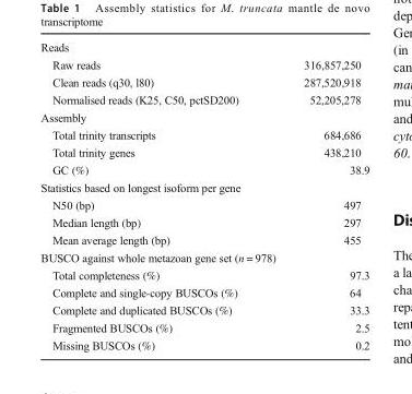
<table><tbody><tr><td colspan="2">Reads</td></tr><tr><td>Raw reads</td><td>316,857,250</td></tr><tr><td>Clean reads (q30, l80)</td><td>287,520,918</td></tr><tr><td>Normalised reads (K25, C50, pctSD200)</td><td>52,205,278</td></tr><tr><td colspan="2">Assembly</td></tr><tr><td>Total trinity transcripts</td><td>684,686</td></tr><tr><td>Total trinity genes</td><td>438,210</td></tr><tr><td>GC (%)</td><td>38.9</td></tr><tr><td colspan="2">Statistics based on longest isoform per gene</td></tr><tr><td>N50 (bp)</td><td>497</td></tr><tr><td>Median length (bp)</td><td>297</td></tr><tr><td>Mean average length (bp)</td><td>455</td></tr><tr><td colspan="2">BUSCO against whole metazoan gene set (n = 978)</td></tr><tr><td>Total completeness (%)</td><td>97.3</td></tr><tr><td>Complete and single-copy BUSCOs (%)</td><td>64</td></tr><tr><td>Complete and duplicated BUSCOs (%)</td><td>33.3</td></tr><tr><td>Fragmented BUSCOs (%)</td><td>2.5</td></tr><tr><td>Missing BUSCOs (%)</td><td>0.2</td></tr></tbody></table>